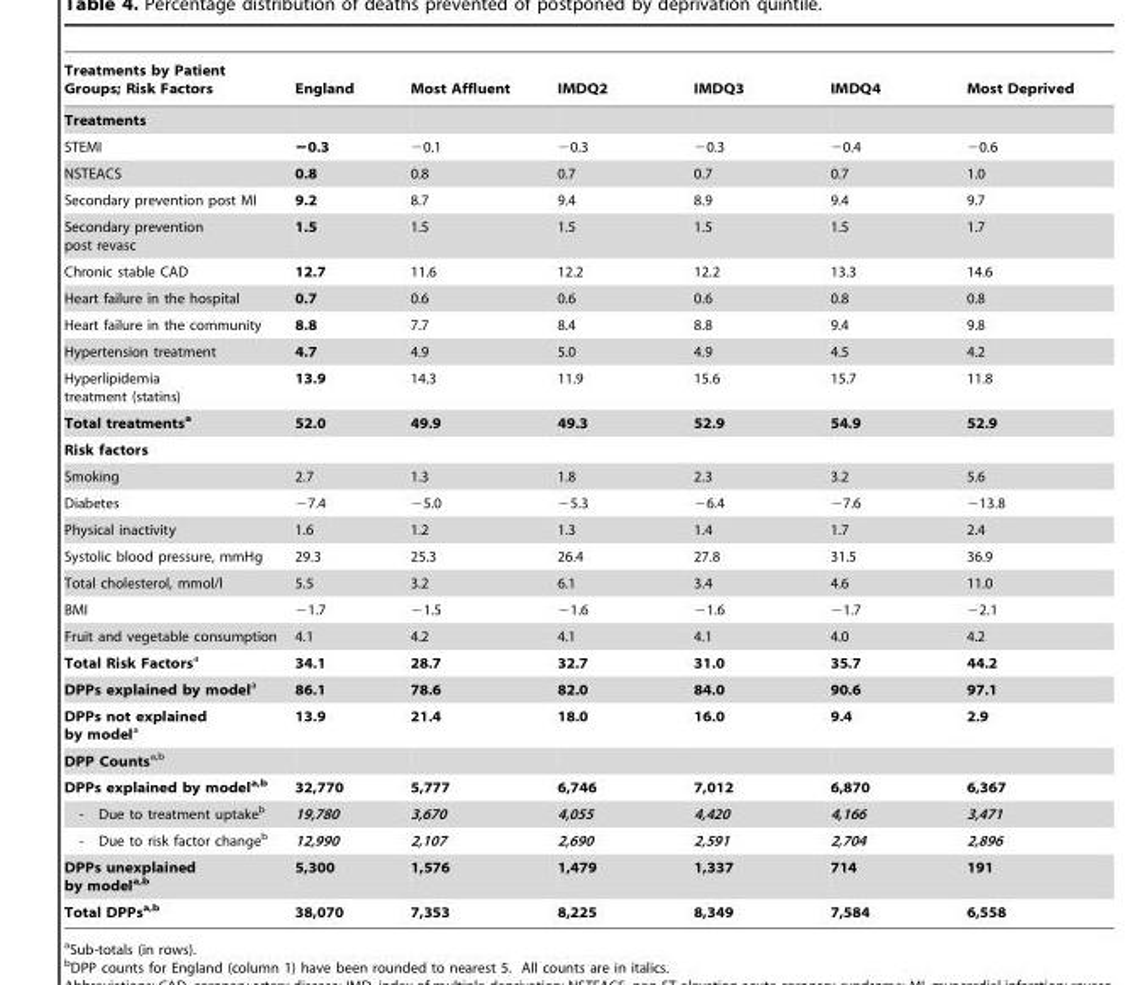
<table><thead><tr><td>Treatments by Patient Groups; Risk Factors</td><td>England</td><td>Most Affluent</td><td>IMDQ2</td><td>IMDQ3</td><td>IMDQ4</td><td>Most Deprived</td></tr></thead><tbody><tr><td colspan="7">Treatments</td></tr><tr><td>STEMI</td><td>−0.3</td><td>−0.1</td><td>−0.3</td><td>−0.3</td><td>−0.4</td><td>−0.6</td></tr><tr><td>NSTEACS</td><td>0.8</td><td>0.8</td><td>0.7</td><td>0.7</td><td>0.7</td><td>1.0</td></tr><tr><td>Secondary prevention post MI</td><td>9.2</td><td>8.7</td><td>9.4</td><td>8.9</td><td>9.4</td><td>9.7</td></tr><tr><td>Secondary prevention post revasc</td><td>1.5</td><td>1.5</td><td>1.5</td><td>1.5</td><td>1.5</td><td>1.7</td></tr><tr><td>Chronic stable CAD</td><td>12.7</td><td>11.6</td><td>12.2</td><td>12.2</td><td>13.3</td><td>14.6</td></tr><tr><td>Heart failure in the hospital</td><td>0.7</td><td>0.6</td><td>0.6</td><td>0.6</td><td>0.8</td><td>0.8</td></tr><tr><td>Heart failure in the community</td><td>8.8</td><td>7.7</td><td>8.4</td><td>8.8</td><td>9.4</td><td>9.8</td></tr><tr><td>Hypertension treatment</td><td>4.7</td><td>4.9</td><td>5.0</td><td>4.9</td><td>4.5</td><td>4.2</td></tr><tr><td>Hyperlipidemia treatment (statins)</td><td>13.9</td><td>14.3</td><td>11.9</td><td>15.6</td><td>15.7</td><td>11.8</td></tr><tr><td>Total treatmentsa</td><td>52.0</td><td>49.9</td><td>49.3</td><td>52.9</td><td>54.9</td><td>52.9</td></tr><tr><td colspan="7">Risk factors</td></tr><tr><td>Smoking</td><td>2.7</td><td>1.3</td><td>1.8</td><td>2.3</td><td>3.2</td><td>5.6</td></tr><tr><td>Diabetes</td><td>−7.4</td><td>−5.0</td><td>−5.3</td><td>−6.4</td><td>−7.6</td><td>−13.8</td></tr><tr><td>Physical inactivity</td><td>1.6</td><td>1.2</td><td>1.3</td><td>1.4</td><td>1.7</td><td>2.4</td></tr><tr><td>Systolic blood pressure, mmHg</td><td>29.3</td><td>25.3</td><td>26.4</td><td>27.8</td><td>31.5</td><td>36.9</td></tr><tr><td>Total cholesterol, mmol/l</td><td>5.5</td><td>3.2</td><td>6.1</td><td>3.4</td><td>4.6</td><td>11.0</td></tr><tr><td>BMI</td><td>−1.7</td><td>−1.5</td><td>−1.6</td><td>−1.6</td><td>−1.7</td><td>−2.1</td></tr><tr><td>Fruit and vegetable consumption</td><td>4.1</td><td>4.2</td><td>4.1</td><td>4.1</td><td>4.0</td><td>4.2</td></tr><tr><td>Total Risk Factorsa</td><td>34.1</td><td>28.7</td><td>32.7</td><td>31.0</td><td>35.7</td><td>44.2</td></tr><tr><td>DPPs explained by modela</td><td>86.1</td><td>78.6</td><td>82.0</td><td>84.0</td><td>90.6</td><td>97.1</td></tr><tr><td>DPPs not explained by modela</td><td>13.9</td><td>21.4</td><td>18.0</td><td>16.0</td><td>9.4</td><td>2.9</td></tr><tr><td colspan="7">DPP Countsa<sup>,</sup>b</td></tr><tr><td>DPPs explained by modela<sup>,</sup>b</td><td>32,770</td><td>5,777</td><td>6,746</td><td>7,012</td><td>6,870</td><td>6,367</td></tr><tr><td>- Due to treatment uptake<sup>b</sup></td><td>19,780</td><td>3,670</td><td>4,055</td><td>4,420</td><td>4,166</td><td>3,471</td></tr><tr><td>- Due to risk factor change<sup>b</sup></td><td>12,990</td><td>2,107</td><td>2,690</td><td>2,591</td><td>2,704</td><td>2,896</td></tr><tr><td>DPPs unexplained by modela<sup>,</sup>b</td><td>5,300</td><td>1,576</td><td>1,479</td><td>1,337</td><td>714</td><td>191</td></tr><tr><td>Total DPPsa<sup>,</sup>b</td><td>38,070</td><td>7,353</td><td>8,225</td><td>8,349</td><td>7,584</td><td>6,558</td></tr></tbody></table>